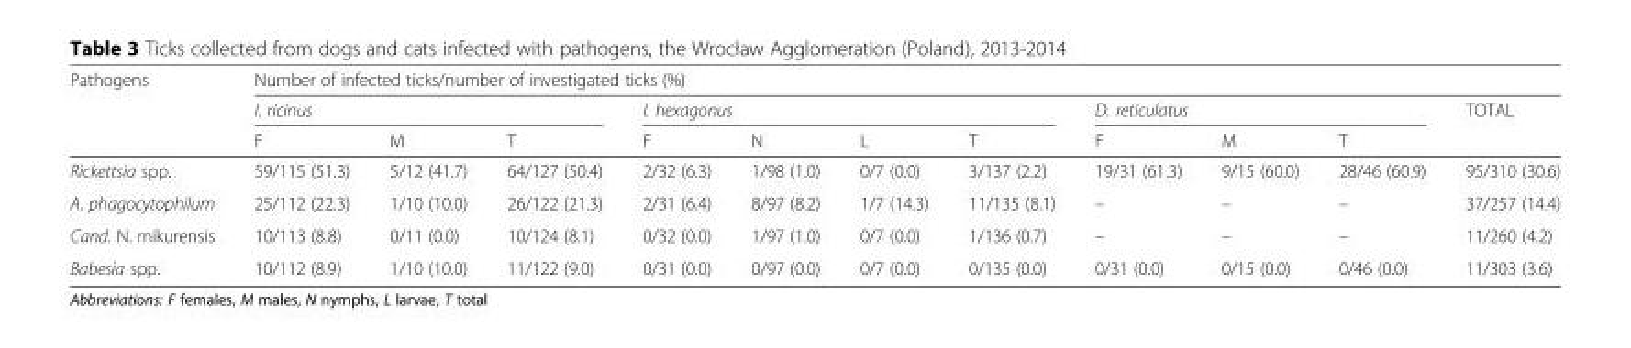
<table><thead><tr><td rowspan="3">Pathogens</td><td colspan="11">Number of infected ticks/number of investigated ticks (%)</td></tr><tr><td colspan="3">I. ricinus</td><td colspan="4">I. hexagonus</td><td colspan="3">D. reticulatus</td><td rowspan="2">TOTAL</td></tr><tr><td>F</td><td>M</td><td>T</td><td>F</td><td>N</td><td>L</td><td>T</td><td>F</td><td>M</td><td>T</td></tr></thead><tbody><tr><td>Rickettsia spp.</td><td>59/115 (51.3)</td><td>5/12 (41.7)</td><td>64/127 (50.4)</td><td>2/32 (6.3)</td><td>1/98 (1.0)</td><td>0/7 (0.0)</td><td>3/137 (2.2)</td><td>19/31 (61.3)</td><td>9/15 (60.0)</td><td>28/46 (60.9)</td><td>95/310 (30.6)</td></tr><tr><td>A. phagocytophilum</td><td>25/112 (22.3)</td><td>1/10 (10.0)</td><td>26/122 (21.3)</td><td>2/31 (6.4)</td><td>8/97 (8.2)</td><td>1/7 (14.3)</td><td>11/135 (8.1)</td><td>–</td><td>–</td><td>–</td><td>37/257 (14.4)</td></tr><tr><td>Cand. N. mikurensis</td><td>10/113 (8.8)</td><td>0/11 (0.0)</td><td>10/124 (8.1)</td><td>0/32 (0.0)</td><td>1/97 (1.0)</td><td>0/7 (0.0)</td><td>1/136 (0.7)</td><td>–</td><td>–</td><td>–</td><td>11/260 (4.2)</td></tr><tr><td>Babesia spp.</td><td>10/112 (8.9)</td><td>1/10 (10.0)</td><td>11/122 (9.0)</td><td>0/31 (0.0)</td><td>0/97 (0.0)</td><td>0/7 (0.0)</td><td>0/135 (0.0)</td><td>0/31 (0.0)</td><td>0/15 (0.0)</td><td>0/46 (0.0)</td><td>11/303 (3.6)</td></tr></tbody></table>